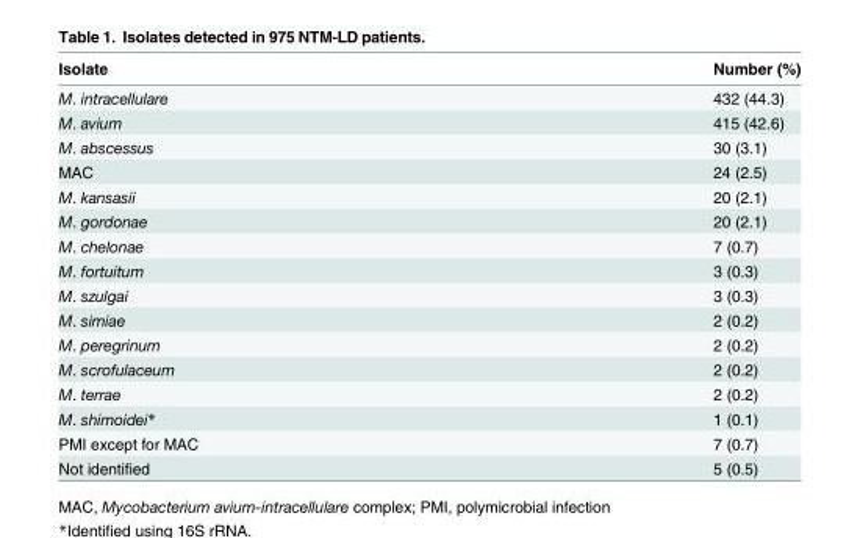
<table><thead><tr><td>Isolate</td><td>Number (%)</td></tr></thead><tbody><tr><td>M. intracellulare</td><td>432 (44.3)</td></tr><tr><td>M. avium</td><td>415 (42.6)</td></tr><tr><td>M. abscessus</td><td>30 (3.1)</td></tr><tr><td>MAC</td><td>24 (2.5)</td></tr><tr><td>M. kansasii</td><td>20 (2.1)</td></tr><tr><td>M. gordonae</td><td>20 (2.1)</td></tr><tr><td>M. chelonae</td><td>7 (0.7)</td></tr><tr><td>M. fortuitum</td><td>3 (0.3)</td></tr><tr><td>M. szulgai</td><td>3 (0.3)</td></tr><tr><td>M. simiae</td><td>2 (0.2)</td></tr><tr><td>M. peregrinum</td><td>2 (0.2)</td></tr><tr><td>M. scrofulaceum</td><td>2 (0.2)</td></tr><tr><td>M. terrae</td><td>2 (0.2)</td></tr><tr><td>M. shimoidei*</td><td>1 (0.1)</td></tr><tr><td>PMI except for MAC</td><td>7 (0.7)</td></tr><tr><td>Not identified</td><td>5 (0.5)</td></tr></tbody></table>